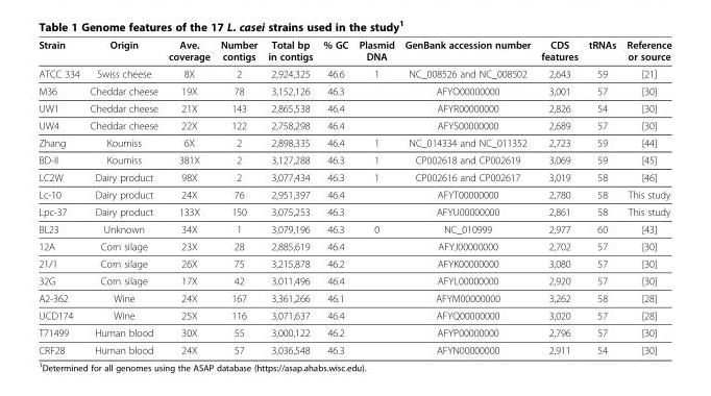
<table><thead><tr><td>Strain</td><td>Origin</td><td>Ave. coverage</td><td>Number contigs</td><td>Total bp in contigs</td><td>% GC</td><td>Plasmid DNA</td><td>GenBank accession number</td><td>CDS features</td><td>tRNAs</td><td>Reference or source</td></tr></thead><tbody><tr><td>ATCC 334</td><td>Swiss cheese</td><td>8X</td><td>2</td><td>2,924,325</td><td>46.6</td><td>1</td><td>NC_008526 and NC_008502</td><td>2,643</td><td>59</td><td>[21]</td></tr><tr><td>M36</td><td>Cheddar cheese</td><td>19X</td><td>78</td><td>3,152,126</td><td>46.3</td><td></td><td>AFYO00000000</td><td>3,001</td><td>57</td><td>[30]</td></tr><tr><td>UW1</td><td>Cheddar cheese</td><td>21X</td><td>143</td><td>2,865,538</td><td>46.4</td><td></td><td>AFYR00000000</td><td>2,826</td><td>54</td><td>[30]</td></tr><tr><td>UW4</td><td>Cheddar cheese</td><td>22X</td><td>122</td><td>2,758,298</td><td>46.4</td><td></td><td>AFYS00000000</td><td>2,689</td><td>57</td><td>[30]</td></tr><tr><td>Zhang</td><td>Koumiss</td><td>6X</td><td>2</td><td>2,898,335</td><td>46.4</td><td>1</td><td>NC_014334 and NC_011352</td><td>2,723</td><td>59</td><td>[44]</td></tr><tr><td>BD-II</td><td>Koumiss</td><td>381X</td><td>2</td><td>3,127,288</td><td>46.3</td><td>1</td><td>CP002618 and CP002619</td><td>3,069</td><td>59</td><td>[45]</td></tr><tr><td>LC2W</td><td>Dairy product</td><td>98X</td><td>2</td><td>3,077,434</td><td>46.3</td><td>1</td><td>CP002616 and CP002617</td><td>3,019</td><td>58</td><td>[46]</td></tr><tr><td>Lc-10</td><td>Dairy product</td><td>24X</td><td>76</td><td>2,951,397</td><td>46.4</td><td></td><td>AFYT00000000</td><td>2,780</td><td>58</td><td>This study</td></tr><tr><td>Lpc-37</td><td>Dairy product</td><td>133X</td><td>150</td><td>3,075,253</td><td>46.3</td><td></td><td>AFYU00000000</td><td>2,861</td><td>58</td><td>This study</td></tr><tr><td>BL23</td><td>Unknown</td><td>34X</td><td>1</td><td>3,079,196</td><td>46.3</td><td>0</td><td>NC_010999</td><td>2,977</td><td>60</td><td>[43]</td></tr><tr><td>12A</td><td>Corn silage</td><td>23X</td><td>28</td><td>2,885,619</td><td>46.4</td><td></td><td>AFYJ00000000</td><td>2,702</td><td>57</td><td>[30]</td></tr><tr><td>21/1</td><td>Corn silage</td><td>26X</td><td>75</td><td>3,215,878</td><td>46.2</td><td></td><td>AFYK00000000</td><td>3,080</td><td>57</td><td>[30]</td></tr><tr><td>32G</td><td>Corn silage</td><td>17X</td><td>42</td><td>3,011,496</td><td>46.4</td><td></td><td>AFYL00000000</td><td>2,920</td><td>57</td><td>[30]</td></tr><tr><td>A2-362</td><td>Wine</td><td>24X</td><td>167</td><td>3,361,266</td><td>46.1</td><td></td><td>AFYM00000000</td><td>3,262</td><td>58</td><td>[28]</td></tr><tr><td>UCD174</td><td>Wine</td><td>25X</td><td>116</td><td>3,071,637</td><td>46.4</td><td></td><td>AFYQ00000000</td><td>3,020</td><td>57</td><td>[28]</td></tr><tr><td>T71499</td><td>Human blood</td><td>30X</td><td>55</td><td>3,000,122</td><td>46.2</td><td></td><td>AFYP00000000</td><td>2,796</td><td>57</td><td>[30]</td></tr><tr><td>CRF28</td><td>Human blood</td><td>24X</td><td>57</td><td>3,036,548</td><td>46.3</td><td></td><td>AFYN00000000</td><td>2,911</td><td>54</td><td>[30]</td></tr></tbody></table>